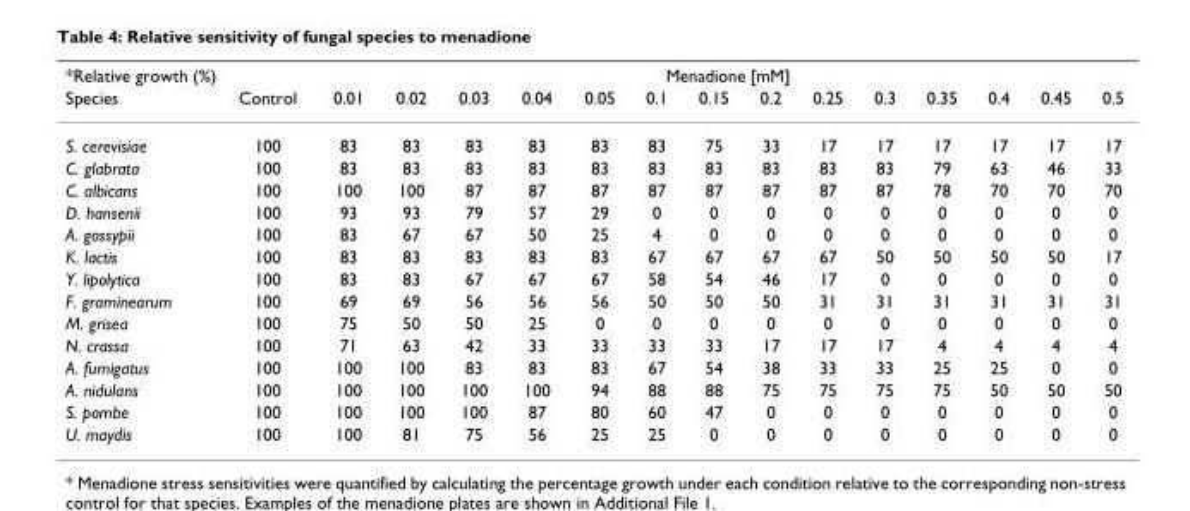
<table><thead><tr><td colspan="2">*Relative growth (%)</td><td colspan="14">Menadione [mM]</td></tr><tr><td>Species</td><td>Control</td><td>0.01</td><td>0.02</td><td>0.03</td><td>0.04</td><td>0.05</td><td>0.1</td><td>0.15</td><td>0.2</td><td>0.25</td><td>0.3</td><td>0.35</td><td>0.4</td><td>0.45</td><td>0.5</td></tr></thead><tbody><tr><td>S. cerevisiae</td><td>100</td><td>83</td><td>83</td><td>83</td><td>83</td><td>83</td><td>83</td><td>75</td><td>33</td><td>17</td><td>17</td><td>17</td><td>17</td><td>17</td><td>17</td></tr><tr><td>C. glabrata</td><td>100</td><td>83</td><td>83</td><td>83</td><td>83</td><td>83</td><td>83</td><td>83</td><td>83</td><td>83</td><td>83</td><td>79</td><td>63</td><td>46</td><td>33</td></tr><tr><td>C. albicans</td><td>100</td><td>100</td><td>100</td><td>87</td><td>87</td><td>87</td><td>87</td><td>87</td><td>87</td><td>87</td><td>87</td><td>78</td><td>70</td><td>70</td><td>70</td></tr><tr><td>D. hansenii</td><td>100</td><td>93</td><td>93</td><td>79</td><td>57</td><td>29</td><td>0</td><td>0</td><td>0</td><td>0</td><td>0</td><td>0</td><td>0</td><td>0</td><td>0</td></tr><tr><td>A. gossypii</td><td>100</td><td>83</td><td>67</td><td>67</td><td>50</td><td>25</td><td>4</td><td>0</td><td>0</td><td>0</td><td>0</td><td>0</td><td>0</td><td>0</td><td>0</td></tr><tr><td>K. lactis</td><td>100</td><td>83</td><td>83</td><td>83</td><td>83</td><td>83</td><td>67</td><td>67</td><td>67</td><td>67</td><td>50</td><td>50</td><td>50</td><td>50</td><td>17</td></tr><tr><td>Y. lipolytica</td><td>100</td><td>83</td><td>83</td><td>67</td><td>67</td><td>67</td><td>58</td><td>54</td><td>46</td><td>17</td><td>0</td><td>0</td><td>0</td><td>0</td><td>0</td></tr><tr><td>F. graminearum</td><td>100</td><td>69</td><td>69</td><td>56</td><td>56</td><td>56</td><td>50</td><td>50</td><td>50</td><td>31</td><td>31</td><td>31</td><td>31</td><td>31</td><td>31</td></tr><tr><td>M. grisea</td><td>100</td><td>75</td><td>50</td><td>50</td><td>25</td><td>0</td><td>0</td><td>0</td><td>0</td><td>0</td><td>0</td><td>0</td><td>0</td><td>0</td><td>0</td></tr><tr><td>N. crassa</td><td>100</td><td>71</td><td>63</td><td>42</td><td>33</td><td>33</td><td>33</td><td>33</td><td>17</td><td>17</td><td>17</td><td>4</td><td>4</td><td>4</td><td>4</td></tr><tr><td>A. fumigatus</td><td>100</td><td>100</td><td>100</td><td>83</td><td>83</td><td>83</td><td>67</td><td>54</td><td>38</td><td>33</td><td>33</td><td>25</td><td>25</td><td>0</td><td>0</td></tr><tr><td>A. nidulans</td><td>100</td><td>100</td><td>100</td><td>100</td><td>100</td><td>94</td><td>88</td><td>88</td><td>75</td><td>75</td><td>75</td><td>75</td><td>50</td><td>50</td><td>50</td></tr><tr><td>S. pombe</td><td>100</td><td>100</td><td>100</td><td>100</td><td>87</td><td>80</td><td>60</td><td>47</td><td>0</td><td>0</td><td>0</td><td>0</td><td>0</td><td>0</td><td>0</td></tr><tr><td>U. maydis</td><td>100</td><td>100</td><td>81</td><td>75</td><td>56</td><td>25</td><td>25</td><td>0</td><td>0</td><td>0</td><td>0</td><td>0</td><td>0</td><td>0</td><td>0</td></tr></tbody></table>